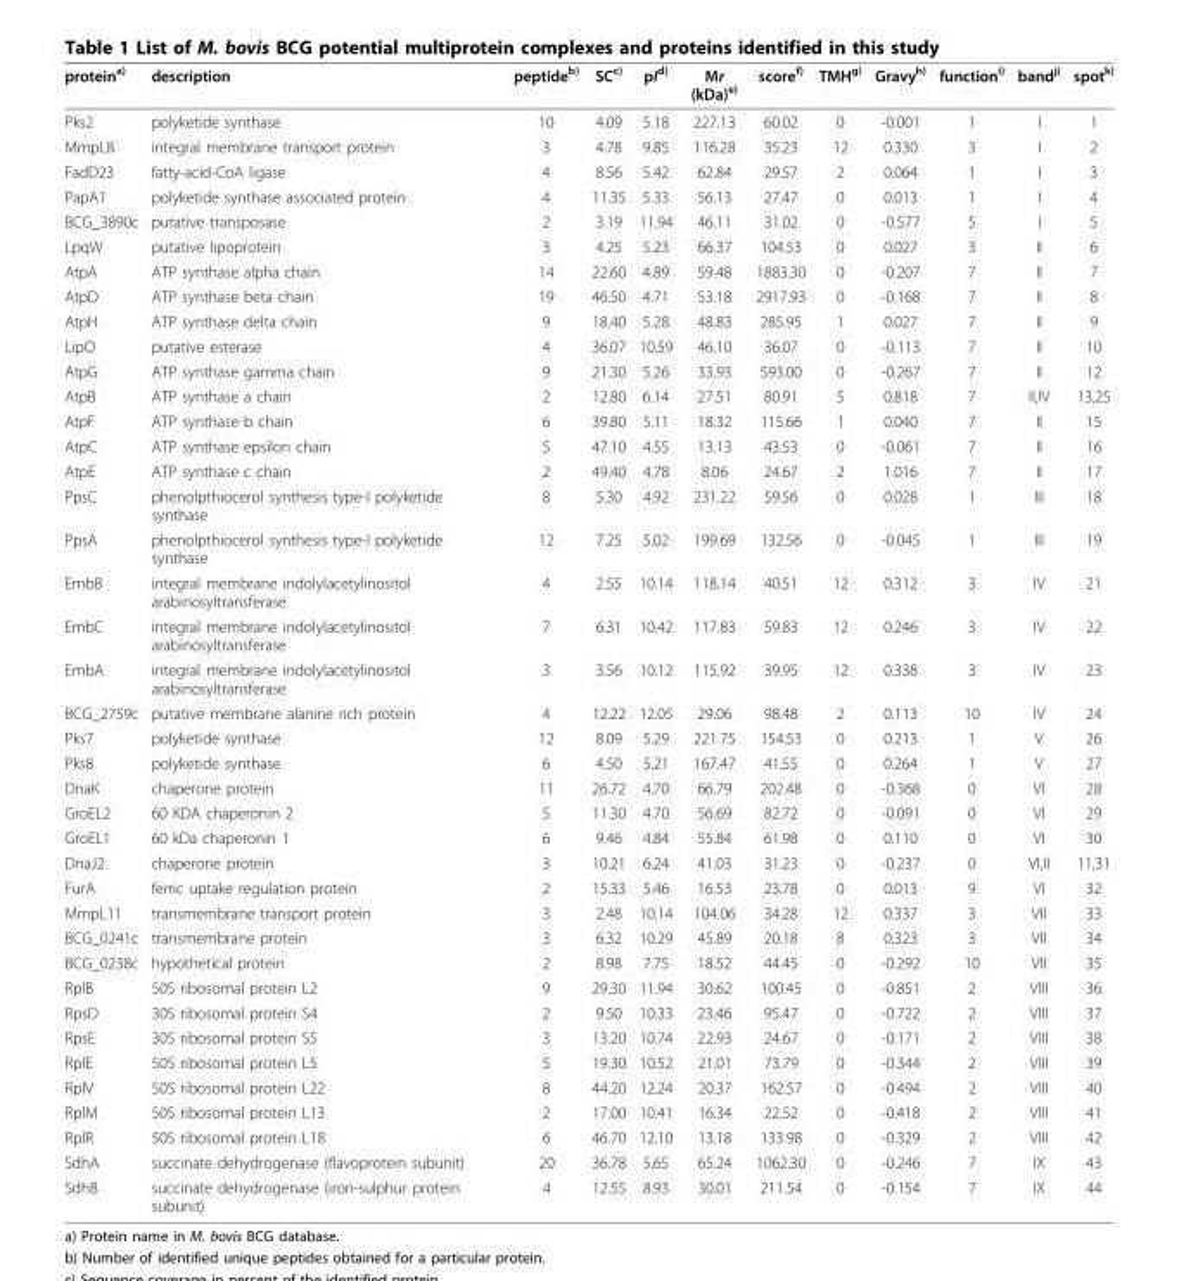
<table><thead><tr><td>proteina)</td><td>description</td><td>peptide<sup>b)</sup></td><td>SC<sup>c)</sup></td><td>pI<sup>d)</sup></td><td>Mr (kDa)<sup>e)</sup></td><td>score<sup>f)</sup></td><td>TMH<sup>g)</sup></td><td>Gravy<sup>h)</sup></td><td>function<sup>i)</sup></td><td>band<sup>j)</sup></td><td>spot<sup>k)</sup></td></tr></thead><tbody><tr><td>Pks2</td><td>polyketide synthase</td><td>10</td><td>4.09</td><td>5.18</td><td>227.13</td><td>60.02</td><td>0</td><td>-0.001</td><td>1</td><td>I</td><td>1</td></tr><tr><td>MmpL8</td><td>integral membrane transport protein</td><td>3</td><td>4.78</td><td>9.85</td><td>116.28</td><td>35.23</td><td>12</td><td>0.330</td><td>3</td><td>I</td><td>2</td></tr><tr><td>FadD23</td><td>fatty-acid-CoA ligase</td><td>4</td><td>8.56</td><td>5.42</td><td>62.84</td><td>29.57</td><td>2</td><td>0.064</td><td>1</td><td>I</td><td>3</td></tr><tr><td>PapA1</td><td>polyketide synthase associated protein</td><td>4</td><td>11.35</td><td>5.33</td><td>56.13</td><td>27.47</td><td>0</td><td>0.013</td><td>1</td><td>I</td><td>4</td></tr><tr><td>BCG_3890c</td><td>putative transposase</td><td>2</td><td>3.19</td><td>11.94</td><td>46.11</td><td>31.02</td><td>0</td><td>-0.577</td><td>5</td><td>I</td><td>5</td></tr><tr><td>LpqW</td><td>putative lipoprotein</td><td>3</td><td>4.25</td><td>5.23</td><td>66.37</td><td>104.53</td><td>0</td><td>0.027</td><td>3</td><td>II</td><td>6</td></tr><tr><td>AtpA</td><td>ATP synthase alpha chain</td><td>14</td><td>22.60</td><td>4.89</td><td>59.48</td><td>1883.30</td><td>0</td><td>-0.207</td><td>7</td><td>II</td><td>7</td></tr><tr><td>AtpD</td><td>ATP synthase beta chain</td><td>19</td><td>46.50</td><td>4.71</td><td>53.18</td><td>2917.93</td><td>0</td><td>-0.168</td><td>7</td><td>II</td><td>8</td></tr><tr><td>AtpH</td><td>ATP synthase delta chain</td><td>9</td><td>18.40</td><td>5.28</td><td>48.83</td><td>285.95</td><td>1</td><td>0.027</td><td>7</td><td>II</td><td>9</td></tr><tr><td>LipO</td><td>putative esterase</td><td>4</td><td>36.07</td><td>10.59</td><td>46.10</td><td>36.07</td><td>0</td><td>-0.113</td><td>7</td><td>II</td><td>10</td></tr><tr><td>AtpG</td><td>ATP synthase gamma chain</td><td>9</td><td>21.30</td><td>5.26</td><td>33.93</td><td>593.00</td><td>0</td><td>-0.267</td><td>7</td><td>II</td><td>12</td></tr><tr><td>AtpB</td><td>ATP synthase a chain</td><td>2</td><td>12.80</td><td>6.14</td><td>27.51</td><td>80.91</td><td>5</td><td>0.818</td><td>7</td><td>II,IV</td><td>13,25</td></tr><tr><td>AtpF</td><td>ATP synthase b chain</td><td>6</td><td>39.80</td><td>5.11</td><td>18.32</td><td>115.66</td><td>1</td><td>0.040</td><td>7</td><td>II</td><td>15</td></tr><tr><td>AtpC</td><td>ATP synthase epsilon chain</td><td>5</td><td>47.10</td><td>4.55</td><td>13.13</td><td>43.53</td><td>0</td><td>-0.061</td><td>7</td><td>II</td><td>16</td></tr><tr><td>AtpE</td><td>ATP synthase c chain</td><td>2</td><td>49.40</td><td>4.78</td><td>8.06</td><td>24.67</td><td>2</td><td>1.016</td><td>7</td><td>II</td><td>17</td></tr><tr><td>PpsC</td><td>phenolpthiocerol synthesis type-I polyketide synthase</td><td>8</td><td>5.30</td><td>4.92</td><td>231.22</td><td>59.56</td><td>0</td><td>0.028</td><td>1</td><td>III</td><td>18</td></tr><tr><td>PpsA</td><td>phenolpthiocerol synthesis type-I polyketide synthase</td><td>12</td><td>7.25</td><td>5.02</td><td>199.69</td><td>132.56</td><td>0</td><td>-0.045</td><td>1</td><td>III</td><td>19</td></tr><tr><td>EmbB</td><td>integral membrane indolylacetylinositol arabinosyltransferase</td><td>4</td><td>2.55</td><td>10.14</td><td>118.14</td><td>40.51</td><td>12</td><td>0.312</td><td>3</td><td>IV</td><td>21</td></tr><tr><td>EmbC</td><td>integral membrane indolylacetylinositol arabinosyltransferase</td><td>7</td><td>6.31</td><td>10.42</td><td>117.83</td><td>59.83</td><td>12</td><td>0.246</td><td>3</td><td>IV</td><td>22</td></tr><tr><td>EmbA</td><td>integral membrane indolylacetylinositol arabinosyltransferase</td><td>3</td><td>3.56</td><td>10.12</td><td>115.92</td><td>39.95</td><td>12</td><td>0.338</td><td>3</td><td>IV</td><td>23</td></tr><tr><td>BCG_2759c</td><td>putative membrane alanine rich protein</td><td>4</td><td>12.22</td><td>12.05</td><td>29.06</td><td>98.48</td><td>2</td><td>0.113</td><td>10</td><td>IV</td><td>24</td></tr><tr><td>Pks7</td><td>polyketide synthase</td><td>12</td><td>8.09</td><td>5.29</td><td>221.75</td><td>154.53</td><td>0</td><td>0.213</td><td>1</td><td>V</td><td>26</td></tr><tr><td>Pks8</td><td>polyketide synthase</td><td>6</td><td>4.50</td><td>5.21</td><td>167.47</td><td>41.55</td><td>0</td><td>0.264</td><td>1</td><td>V</td><td>27</td></tr><tr><td>DnaK</td><td>chaperone protein</td><td>11</td><td>26.72</td><td>4.70</td><td>66.79</td><td>202.48</td><td>0</td><td>-0.368</td><td>0</td><td>VI</td><td>28</td></tr><tr><td>GroEL2</td><td>60 KDA chaperonin 2</td><td>5</td><td>11.30</td><td>4.70</td><td>56.69</td><td>82.72</td><td>0</td><td>-0.091</td><td>0</td><td>VI</td><td>29</td></tr><tr><td>GroEL1</td><td>60 kDa chaperonin 1</td><td>6</td><td>9.46</td><td>4.84</td><td>55.84</td><td>61.98</td><td>0</td><td>0.110</td><td>0</td><td>VI</td><td>30</td></tr><tr><td>DnaJ2</td><td>chaperone protein</td><td>3</td><td>10.21</td><td>6.24</td><td>41.03</td><td>31.23</td><td>0</td><td>-0.237</td><td>0</td><td>VI,II</td><td>11,31</td></tr><tr><td>FurA</td><td>ferric uptake regulation protein</td><td>2</td><td>15.33</td><td>5.46</td><td>16.53</td><td>23.78</td><td>0</td><td>0.013</td><td>9</td><td>VI</td><td>32</td></tr><tr><td>MmpL11</td><td>transmembrane transport protein</td><td>3</td><td>2.48</td><td>10.14</td><td>104.06</td><td>34.28</td><td>12</td><td>0.337</td><td>3</td><td>VII</td><td>33</td></tr><tr><td>BCG_0241c</td><td>transmembrane protein</td><td>3</td><td>6.32</td><td>10.29</td><td>45.89</td><td>20.18</td><td>8</td><td>0.323</td><td>3</td><td>VII</td><td>34</td></tr><tr><td>BCG_0238c</td><td>hypothetical protein</td><td>2</td><td>8.98</td><td>7.75</td><td>18.52</td><td>44.45</td><td>0</td><td>-0.292</td><td>10</td><td>VII</td><td>35</td></tr><tr><td>RplB</td><td>50S ribosomal protein L2</td><td>9</td><td>29.30</td><td>11.94</td><td>30.62</td><td>100.45</td><td>0</td><td>-0.851</td><td>2</td><td>VIII</td><td>36</td></tr><tr><td>RpsD</td><td>30S ribosomal protein S4</td><td>2</td><td>9.50</td><td>10.33</td><td>23.46</td><td>95.47</td><td>0</td><td>-0.722</td><td>2</td><td>VIII</td><td>37</td></tr><tr><td>RpsE</td><td>30S ribosomal protein S5</td><td>3</td><td>13.20</td><td>10.74</td><td>22.93</td><td>24.67</td><td>0</td><td>-0.171</td><td>2</td><td>VIII</td><td>38</td></tr><tr><td>RplE</td><td>50S ribosomal protein L5</td><td>5</td><td>19.30</td><td>10.52</td><td>21.01</td><td>73.79</td><td>0</td><td>-0.344</td><td>2</td><td>VIII</td><td>39</td></tr><tr><td>RplV</td><td>50S ribosomal protein L22</td><td>8</td><td>44.20</td><td>12.24</td><td>20.37</td><td>162.57</td><td>0</td><td>-0.494</td><td>2</td><td>VIII</td><td>40</td></tr><tr><td>RplM</td><td>50S ribosomal protein L13</td><td>2</td><td>17.00</td><td>10.41</td><td>16.34</td><td>22.52</td><td>0</td><td>-0.418</td><td>2</td><td>VIII</td><td>41</td></tr><tr><td>RplR</td><td>50S ribosomal protein L18</td><td>6</td><td>46.70</td><td>12.10</td><td>13.18</td><td>133.98</td><td>0</td><td>-0.329</td><td>2</td><td>VIII</td><td>42</td></tr><tr><td>SdhA</td><td>succinate dehydrogenase (flavoprotein subunit)</td><td>20</td><td>36.78</td><td>5.65</td><td>65.24</td><td>1062.30</td><td>0</td><td>-0.246</td><td>7</td><td>IX</td><td>43</td></tr><tr><td>SdhB</td><td>succinate dehydrogenase (iron-sulphur protein subunit)</td><td>4</td><td>12.55</td><td>8.93</td><td>30.01</td><td>211.54</td><td>0</td><td>-0.154</td><td>7</td><td>IX</td><td>44</td></tr></tbody></table>